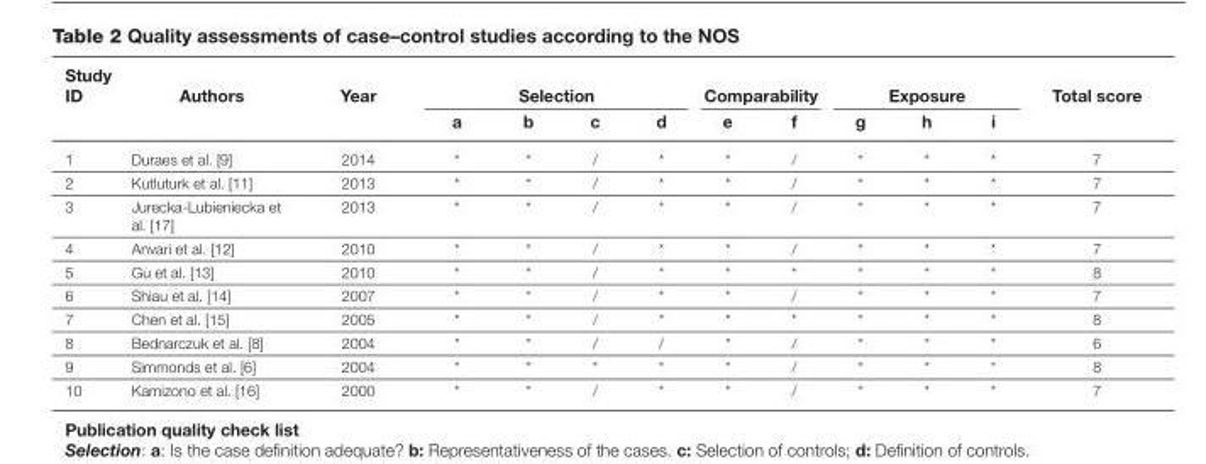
<table><thead><tr><td rowspan="2">Study ID</td><td rowspan="2">Authors</td><td rowspan="2">Year</td><td colspan="4">Selection</td><td colspan="2">Comparability</td><td colspan="3">Exposure</td><td rowspan="2">Total score</td></tr><tr><td>a</td><td>b</td><td>c</td><td>d</td><td>e</td><td>f</td><td>g</td><td>h</td><td>i</td></tr></thead><tbody><tr><td>1</td><td>Duraes et al. [9]</td><td>2014</td><td>*</td><td>*</td><td>/</td><td>*</td><td>*</td><td>/</td><td>*</td><td>*</td><td>*</td><td>7</td></tr><tr><td>2</td><td>Kutluturk et al. [11]</td><td>2013</td><td>*</td><td>*</td><td>/</td><td>*</td><td>*</td><td>/</td><td>*</td><td>*</td><td>*</td><td>7</td></tr><tr><td>3</td><td>Jurecka-Lubieniecka et al. [17]</td><td>2013</td><td>*</td><td>*</td><td>/</td><td>*</td><td>*</td><td>/</td><td>*</td><td>*</td><td>*</td><td>7</td></tr><tr><td>4</td><td>Anvari et al. [12]</td><td>2010</td><td>*</td><td>*</td><td>/</td><td>*</td><td>*</td><td>/</td><td>*</td><td>*</td><td>*</td><td>7</td></tr><tr><td>5</td><td>Gu et al. [13]</td><td>2010</td><td>*</td><td>*</td><td>/</td><td>*</td><td>*</td><td>*</td><td>*</td><td>*</td><td>*</td><td>8</td></tr><tr><td>6</td><td>Shiau et al. [14]</td><td>2007</td><td>*</td><td>*</td><td>/</td><td>*</td><td>*</td><td>/</td><td>*</td><td>*</td><td>*</td><td>7</td></tr><tr><td>7</td><td>Chen et al. [15]</td><td>2005</td><td>*</td><td>*</td><td>/</td><td>*</td><td>*</td><td>*</td><td>*</td><td>*</td><td>*</td><td>8</td></tr><tr><td>8</td><td>Bednarczuk et al. [8]</td><td>2004</td><td>*</td><td>*</td><td>/</td><td>/</td><td>*</td><td>/</td><td>*</td><td>*</td><td>*</td><td>6</td></tr><tr><td>9</td><td>Simmonds et al. [6]</td><td>2004</td><td>*</td><td>*</td><td>*</td><td>*</td><td>*</td><td>/</td><td>*</td><td>*</td><td>*</td><td>8</td></tr><tr><td>10</td><td>Kamizono et al. [16]</td><td>2000</td><td>*</td><td>*</td><td>/</td><td>*</td><td>*</td><td>/</td><td>*</td><td>*</td><td>*</td><td>7</td></tr></tbody></table>